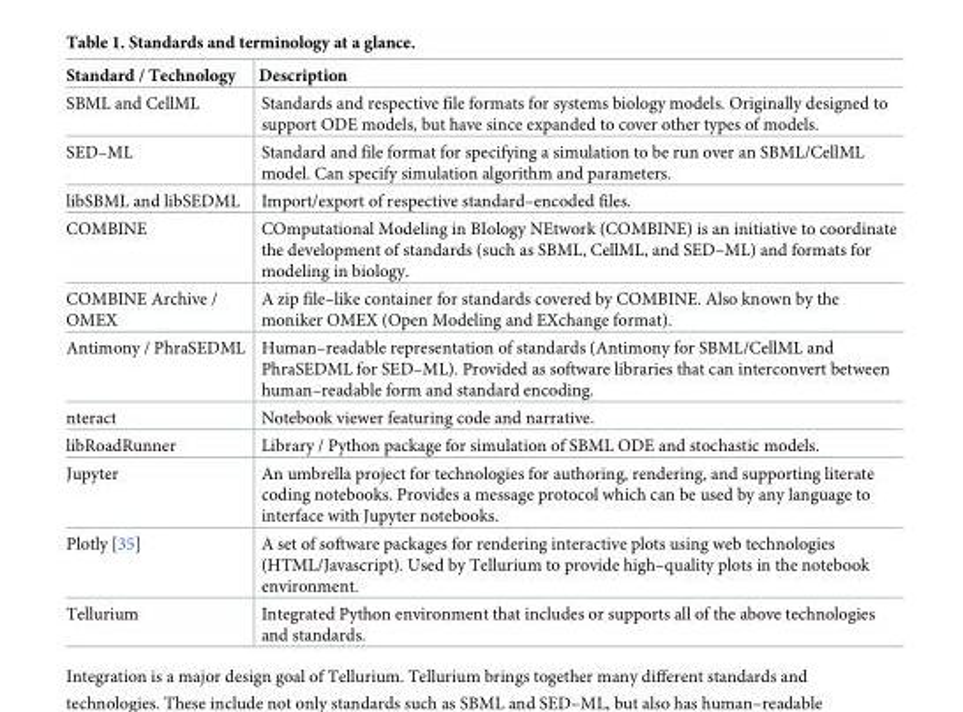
<table><thead><tr><td>Standard / Technology</td><td>Description</td></tr></thead><tbody><tr><td>SBML and CellML</td><td>Standards and respective file formats for systems biology models. Originally designed to support ODE models, but have since expanded to cover other types of models.</td></tr><tr><td>SED–ML</td><td>Standard and file format for specifying a simulation to be run over an SBML/CellML model. Can specify simulation algorithm and parameters.</td></tr><tr><td>libSBML and libSEDML</td><td>Import/export of respective standard–encoded files.</td></tr><tr><td>COMBINE</td><td>COmputational Modeling in BIology NEtwork (COMBINE) is an initiative to coordinate the development of standards (such as SBML, CellML, and SED–ML) and formats for modeling in biology.</td></tr><tr><td>COMBINE Archive / OMEX</td><td>A zip file–like container for standards covered by COMBINE. Also known by the moniker OMEX (Open Modeling and EXchange format).</td></tr><tr><td>Antimony / PhraSEDML</td><td>Human–readable representation of standards (Antimony for SBML/CellML and PhraSEDML for SED–ML). Provided as software libraries that can interconvert between human–readable form and standard encoding.</td></tr><tr><td>nteract</td><td>Notebook viewer featuring code and narrative.</td></tr><tr><td>libRoadRunner</td><td>Library / Python package for simulation of SBML ODE and stochastic models.</td></tr><tr><td>Jupyter</td><td>An umbrella project for technologies for authoring, rendering, and supporting literate coding notebooks. Provides a message protocol which can be used by any language to interface with Jupyter notebooks.</td></tr><tr><td>Plotly [35]</td><td>A set of software packages for rendering interactive plots using web technologies (HTML/Javascript). Used by Tellurium to provide high–quality plots in the notebook environment.</td></tr><tr><td>Tellurium</td><td>Integrated Python environment that includes or supports all of the above technologies and standards.</td></tr></tbody></table>